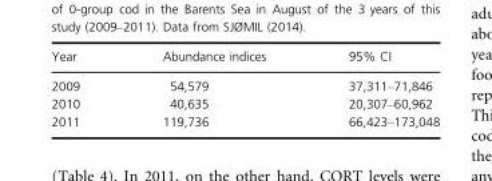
<table><thead><tr><td>Year</td><td>Abundance indices</td><td>95% CI</td></tr></thead><tbody><tr><td>2009</td><td>54,579</td><td>37,311–71,846</td></tr><tr><td>2010</td><td>40,635</td><td>20,307–60,962</td></tr><tr><td>2011</td><td>119,736</td><td>66,423–173,048</td></tr></tbody></table>